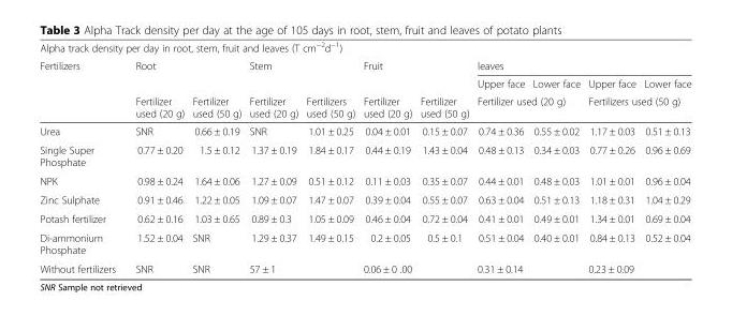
<table><thead><tr><td colspan="11">Alpha track density per day in root, stem, fruit and leaves (T cm<sup>−2</sup>d<sup>−1</sup>)</td></tr><tr><td rowspan="3">Fertilizers</td><td rowspan="2" colspan="2">Root</td><td rowspan="2" colspan="2">Stem</td><td rowspan="2" colspan="2">Fruit</td><td colspan="4">leaves</td></tr><tr><td>Upper face</td><td>Lower face</td><td>Upper face</td><td>Lower face</td></tr><tr><td>Fertilizer used (20 g)</td><td>Fertilizer used (50 g)</td><td>Fertilizer used (20 g)</td><td>Fertilizers used (50 g)</td><td>Fertilizer used (20 g)</td><td>Fertilizer used (50 g)</td><td colspan="2">Fertilizer used (20 g)</td><td colspan="2">Fertilizers used (50 g)</td></tr></thead><tbody><tr><td>Urea</td><td>SNR</td><td>0.66 ± 0.19</td><td>SNR</td><td>1.01 ± 0.25</td><td>0.04 ± 0.01</td><td>0.15 ± 0.07</td><td>0.74 ± 0.36</td><td>0.55 ± 0.02</td><td>1.17 ± 0.03</td><td>0.51 ± 0.13</td></tr><tr><td>Single Super Phosphate</td><td>0.77 ± 0.20</td><td>1.5 ± 0.12</td><td>1.37 ± 0.19</td><td>1.84 ± 0.17</td><td>0.44 ± 0.19</td><td>1.43 ± 0.04</td><td>0.48 ± 0.13</td><td>0.34 ± 0.03</td><td>0.77 ± 0.26</td><td>0.96 ± 0.69</td></tr><tr><td>NPK</td><td>0.98 ± 0.24</td><td>1.64 ± 0.06</td><td>1.27 ± 0.09</td><td>0.51 ± 0.12</td><td>0.11 ± 0.03</td><td>0.35 ± 0.07</td><td>0.44 ± 0.01</td><td>0.48 ± 0.03</td><td>1.01 ± 0.01</td><td>0.96 ± 0.04</td></tr><tr><td>Zinc Sulphate</td><td>0.91 ± 0.46</td><td>1.22 ± 0.05</td><td>1.09 ± 0.07</td><td>1.47 ± 0.07</td><td>0.39 ± 0.04</td><td>0.55 ± 0.07</td><td>0.63 ± 0.04</td><td>0.51 ± 0.13</td><td>1.18 ± 0.31</td><td>1.04 ± 0.29</td></tr><tr><td>Potash fertilizer</td><td>0.62 ± 0.16</td><td>1.03 ± 0.65</td><td>0.89 ± 0.3</td><td>1.05 ± 0.09</td><td>0.46 ± 0.04</td><td>0.72 ± 0.04</td><td>0.41 ± 0.01</td><td>0.49 ± 0.01</td><td>1.34 ± 0.01</td><td>0.69 ± 0.04</td></tr><tr><td>Di-ammonium Phosphate</td><td>1.52 ± 0.04</td><td>SNR</td><td>1.29 ± 0.37</td><td>1.49 ± 0.15</td><td>0.2 ± 0.05</td><td>0.5 ± 0.1</td><td>0.51 ± 0.04</td><td>0.40 ± 0.01</td><td>0.84 ± 0.13</td><td>0.52 ± 0.04</td></tr><tr><td>Without fertilizers</td><td>SNR</td><td>SNR</td><td colspan="2">57 ± 1</td><td colspan="2">0.06 ± 0 .00</td><td colspan="2">0.31 ± 0.14</td><td colspan="2">0.23 ± 0.09</td></tr></tbody></table>